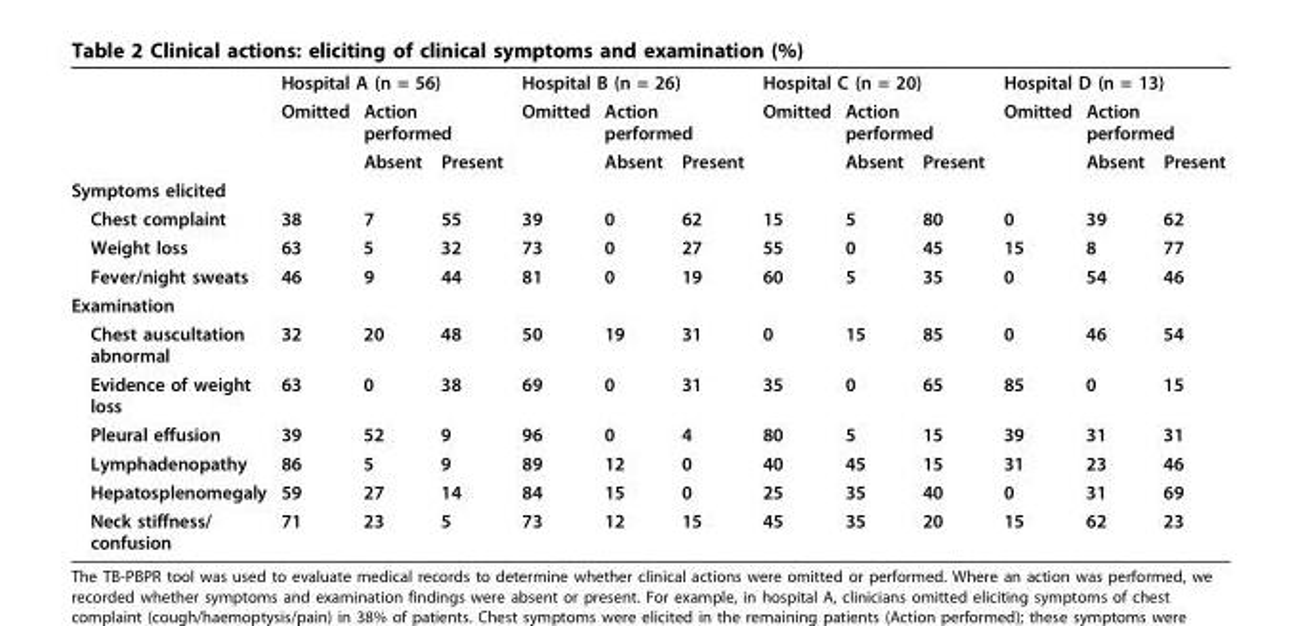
<table><thead><tr><td rowspan="3"></td><td colspan="3">Hospital A (n = 56)</td><td colspan="3">Hospital B (n = 26)</td><td colspan="3">Hospital C (n = 20)</td><td colspan="3">Hospital D (n = 13)</td></tr><tr><td rowspan="2">Omitted</td><td colspan="2">Action performed</td><td rowspan="2">Omitted</td><td colspan="2">Action performed</td><td rowspan="2">Omitted</td><td colspan="2">Action performed</td><td rowspan="2">Omitted</td><td colspan="2">Action performed</td></tr><tr><td>Absent</td><td>Present</td><td>Absent</td><td>Present</td><td>Absent</td><td>Present</td><td>Absent</td><td>Present</td></tr></thead><tbody><tr><td colspan="13">Symptoms elicited</td></tr><tr><td>Chest complaint</td><td>38</td><td>7</td><td>55</td><td>39</td><td>0</td><td>62</td><td>15</td><td>5</td><td>80</td><td>0</td><td>39</td><td>62</td></tr><tr><td>Weight loss</td><td>63</td><td>5</td><td>32</td><td>73</td><td>0</td><td>27</td><td>55</td><td>0</td><td>45</td><td>15</td><td>8</td><td>77</td></tr><tr><td>Fever/night sweats</td><td>46</td><td>9</td><td>44</td><td>81</td><td>0</td><td>19</td><td>60</td><td>5</td><td>35</td><td>0</td><td>54</td><td>46</td></tr><tr><td colspan="13">Examination</td></tr><tr><td>Chest auscultation abnormal</td><td>32</td><td>20</td><td>48</td><td>50</td><td>19</td><td>31</td><td>0</td><td>15</td><td>85</td><td>0</td><td>46</td><td>54</td></tr><tr><td>Evidence of weight loss</td><td>63</td><td>0</td><td>38</td><td>69</td><td>0</td><td>31</td><td>35</td><td>0</td><td>65</td><td>85</td><td>0</td><td>15</td></tr><tr><td>Pleural effusion</td><td>39</td><td>52</td><td>9</td><td>96</td><td>0</td><td>4</td><td>80</td><td>5</td><td>15</td><td>39</td><td>31</td><td>31</td></tr><tr><td>Lymphadenopathy</td><td>86</td><td>5</td><td>9</td><td>89</td><td>12</td><td>0</td><td>40</td><td>45</td><td>15</td><td>31</td><td>23</td><td>46</td></tr><tr><td>Hepatosplenomegaly</td><td>59</td><td>27</td><td>14</td><td>84</td><td>15</td><td>0</td><td>25</td><td>35</td><td>40</td><td>0</td><td>31</td><td>69</td></tr><tr><td>Neck stiffness/ confusion</td><td>71</td><td>23</td><td>5</td><td>73</td><td>12</td><td>15</td><td>45</td><td>35</td><td>20</td><td>15</td><td>62</td><td>23</td></tr></tbody></table>